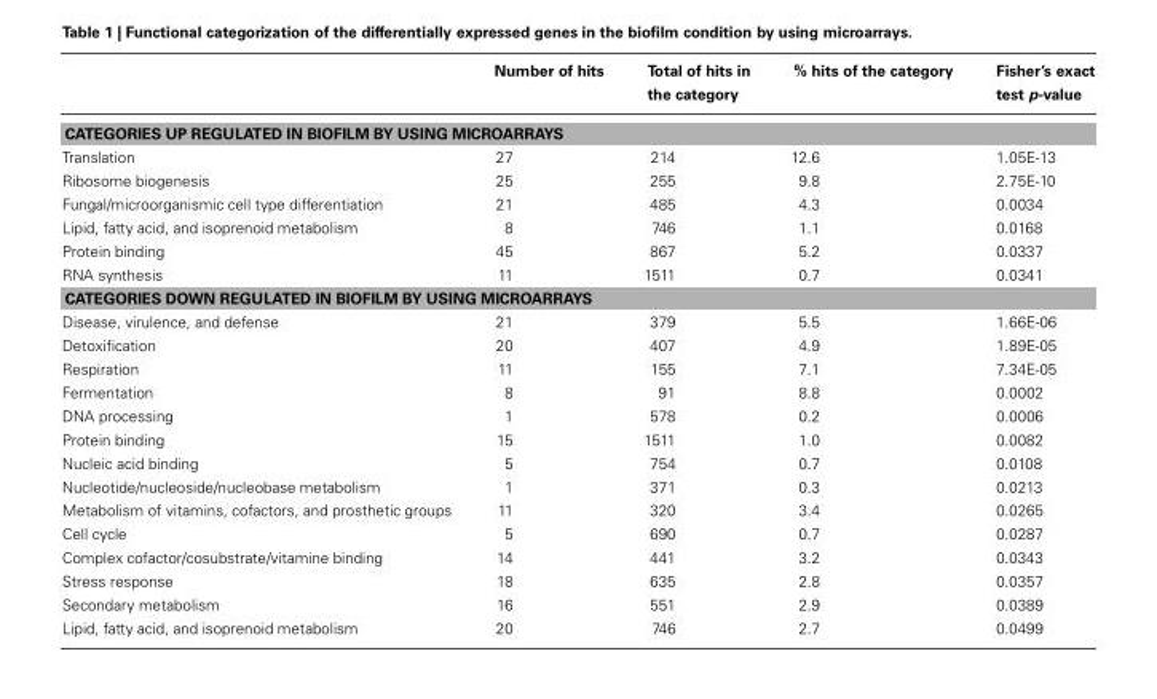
<table><thead><tr><td></td><td>Number of hits</td><td>Total of hits in the category</td><td>% hits of the category</td><td>Fisher’s exact test p-value</td></tr></thead><tbody><tr><td colspan="5">CATEGORIES UP REGULATED IN BIOFILM BY USING MICROARRAYS</td></tr><tr><td>Translation</td><td>27</td><td>214</td><td>12.6</td><td>1.05E-13</td></tr><tr><td>Ribosome biogenesis</td><td>25</td><td>255</td><td>9.8</td><td>2.75E-10</td></tr><tr><td>Fungal/microorganismic cell type differentiation</td><td>21</td><td>485</td><td>4.3</td><td>0.0034</td></tr><tr><td>Lipid, fatty acid, and isoprenoid metabolism</td><td>8</td><td>746</td><td>1.1</td><td>0.0168</td></tr><tr><td>Protein binding</td><td>45</td><td>867</td><td>5.2</td><td>0.0337</td></tr><tr><td>RNA synthesis</td><td>11</td><td>1511</td><td>0.7</td><td>0.0341</td></tr><tr><td colspan="5">CATEGORIES DOWN REGULATED IN BIOFILM BY USING MICROARRAYS</td></tr><tr><td>Disease, virulence, and defense</td><td>21</td><td>379</td><td>5.5</td><td>1.66E-06</td></tr><tr><td>Detoxification</td><td>20</td><td>407</td><td>4.9</td><td>1.89E-05</td></tr><tr><td>Respiration</td><td>11</td><td>155</td><td>7.1</td><td>7.34E-05</td></tr><tr><td>Fermentation</td><td>8</td><td>91</td><td>8.8</td><td>0.0002</td></tr><tr><td>DNA processing</td><td>1</td><td>578</td><td>0.2</td><td>0.0006</td></tr><tr><td>Protein binding</td><td>15</td><td>1511</td><td>1.0</td><td>0.0082</td></tr><tr><td>Nucleic acid binding</td><td>5</td><td>754</td><td>0.7</td><td>0.0108</td></tr><tr><td>Nucleotide/nucleoside/nucleobase metabolism</td><td>1</td><td>371</td><td>0.3</td><td>0.0213</td></tr><tr><td>Metabolism of vitamins, cofactors, and prosthetic groups</td><td>11</td><td>320</td><td>3.4</td><td>0.0265</td></tr><tr><td>Cell cycle</td><td>5</td><td>690</td><td>0.7</td><td>0.0287</td></tr><tr><td>Complex cofactor/cosubstrate/vitamine binding</td><td>14</td><td>441</td><td>3.2</td><td>0.0343</td></tr><tr><td>Stress response</td><td>18</td><td>635</td><td>2.8</td><td>0.0357</td></tr><tr><td>Secondary metabolism</td><td>16</td><td>551</td><td>2.9</td><td>0.0389</td></tr><tr><td>Lipid, fatty acid, and isoprenoid metabolism</td><td>20</td><td>746</td><td>2.7</td><td>0.0499</td></tr></tbody></table>